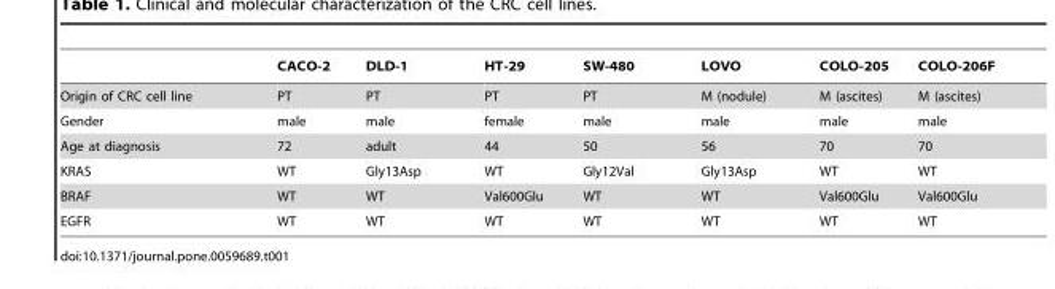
<table><thead><tr><td></td><td>CACO-2</td><td>DLD-1</td><td>HT-29</td><td>SW-480</td><td>LOVO</td><td>COLO-205</td><td>COLO-206F</td></tr></thead><tbody><tr><td>Origin of CRC cell line</td><td>PT</td><td>PT</td><td>PT</td><td>PT</td><td>M (nodule)</td><td>M (ascites)</td><td>M (ascites)</td></tr><tr><td>Gender</td><td>male</td><td>male</td><td>female</td><td>male</td><td>male</td><td>male</td><td>male</td></tr><tr><td>Age at diagnosis</td><td>72</td><td>adult</td><td>44</td><td>50</td><td>56</td><td>70</td><td>70</td></tr><tr><td>KRAS</td><td>WT</td><td>Gly13Asp</td><td>WT</td><td>Gly12Val</td><td>Gly13Asp</td><td>WT</td><td>WT</td></tr><tr><td>BRAF</td><td>WT</td><td>WT</td><td>Val600Glu</td><td>WT</td><td>WT</td><td>Val600Glu</td><td>Val600Glu</td></tr><tr><td>EGFR</td><td>WT</td><td>WT</td><td>WT</td><td>WT</td><td>WT</td><td>WT</td><td>WT</td></tr></tbody></table>